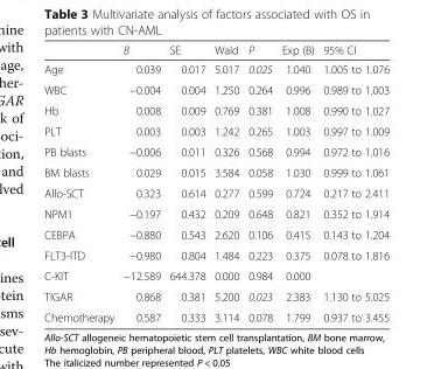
<table><thead><tr><td></td><td>B</td><td>SE</td><td>Wald</td><td>P</td><td>Exp (B)</td><td>95% CI</td></tr></thead><tbody><tr><td>Age</td><td>0.039</td><td>0.017</td><td>5.017</td><td>0.025</td><td>1.040</td><td>1.005 to 1.076</td></tr><tr><td>WBC</td><td>−0.004</td><td>0.004</td><td>1.250</td><td>0.264</td><td>0.996</td><td>0.989 to 1.003</td></tr><tr><td>Hb</td><td>0.008</td><td>0.009</td><td>0.769</td><td>0.381</td><td>1.008</td><td>0.990 to 1.027</td></tr><tr><td>PLT</td><td>0.003</td><td>0.003</td><td>1.242</td><td>0.265</td><td>1.003</td><td>0.997 to 1.009</td></tr><tr><td>PB blasts</td><td>−0.006</td><td>0.011</td><td>0.326</td><td>0.568</td><td>0.994</td><td>0.972 to 1.016</td></tr><tr><td>BM blasts</td><td>0.029</td><td>0.015</td><td>3.584</td><td>0.058</td><td>1.030</td><td>0.999 to 1.061</td></tr><tr><td>Allo-SCT</td><td>0.323</td><td>0.614</td><td>0.277</td><td>0.599</td><td>0.724</td><td>0.217 to 2.411</td></tr><tr><td>NPM1</td><td>−0.197</td><td>0.432</td><td>0.209</td><td>0.648</td><td>0.821</td><td>0.352 to 1.914</td></tr><tr><td>CEBPA</td><td>−0.880</td><td>0.543</td><td>2.620</td><td>0.106</td><td>0.415</td><td>0.143 to 1.204</td></tr><tr><td>FLT3-ITD</td><td>−0.980</td><td>0.804</td><td>1.484</td><td>0.223</td><td>0.375</td><td>0.078 to 1.816</td></tr><tr><td>C-KIT</td><td>−12.589</td><td>644.378</td><td>0.000</td><td>0.984</td><td>0.000</td><td></td></tr><tr><td>TIGAR</td><td>0.868</td><td>0.381</td><td>5.200</td><td>0.023</td><td>2.383</td><td>1.130 to 5.025</td></tr><tr><td>Chemotherapy</td><td>0.587</td><td>0.333</td><td>3.114</td><td>0.078</td><td>1.799</td><td>0.937 to 3.455</td></tr></tbody></table>